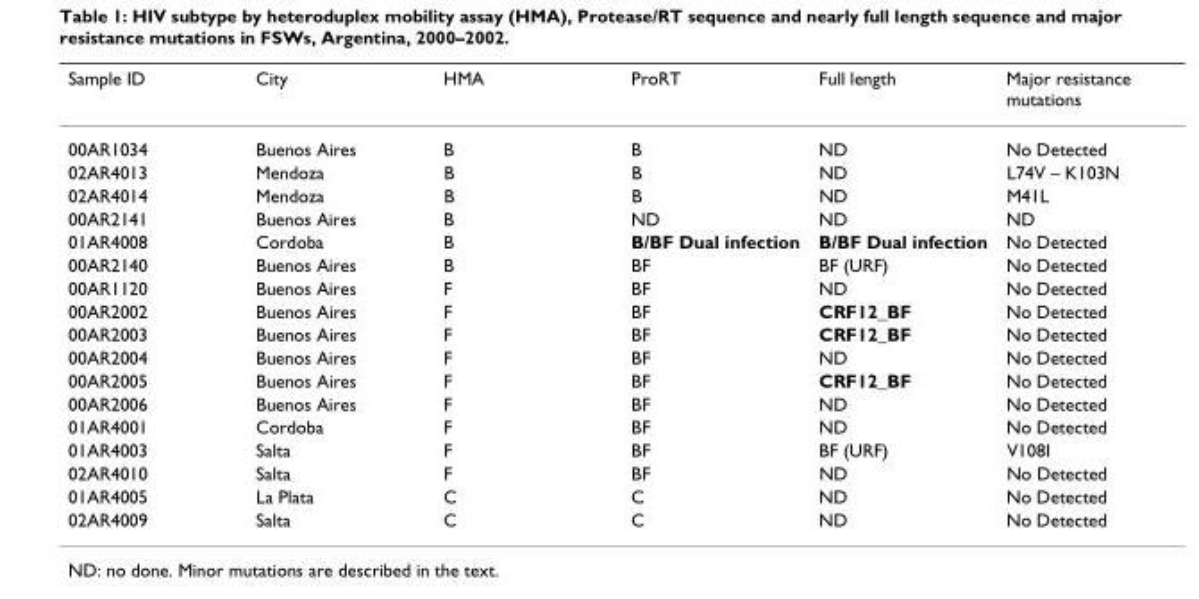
<table><thead><tr><td>Sample ID</td><td>City</td><td>HMA</td><td>ProRT</td><td>Full length</td><td>Major resistance mutations</td></tr></thead><tbody><tr><td>00AR1034</td><td>Buenos Aires</td><td>B</td><td>B</td><td>ND</td><td>No Detected</td></tr><tr><td>02AR4013</td><td>Mendoza</td><td>B</td><td>B</td><td>ND</td><td>L74V – K103N</td></tr><tr><td>02AR4014</td><td>Mendoza</td><td>B</td><td>B</td><td>ND</td><td>M41L</td></tr><tr><td>00AR2141</td><td>Buenos Aires</td><td>B</td><td>ND</td><td>ND</td><td>ND</td></tr><tr><td>01AR4008</td><td>Cordoba</td><td>B</td><td>B/BF Dual infection</td><td>B/BF Dual infection</td><td>No Detected</td></tr><tr><td>00AR2140</td><td>Buenos Aires</td><td>B</td><td>BF</td><td>BF (URF)</td><td>No Detected</td></tr><tr><td>00AR1120</td><td>Buenos Aires</td><td>F</td><td>BF</td><td>ND</td><td>No Detected</td></tr><tr><td>00AR2002</td><td>Buenos Aires</td><td>F</td><td>BF</td><td>CRF12_BF</td><td>No Detected</td></tr><tr><td>00AR2003</td><td>Buenos Aires</td><td>F</td><td>BF</td><td>CRF12_BF</td><td>No Detected</td></tr><tr><td>00AR2004</td><td>Buenos Aires</td><td>F</td><td>BF</td><td>ND</td><td>No Detected</td></tr><tr><td>00AR2005</td><td>Buenos Aires</td><td>F</td><td>BF</td><td>CRF12_BF</td><td>No Detected</td></tr><tr><td>00AR2006</td><td>Buenos Aires</td><td>F</td><td>BF</td><td>ND</td><td>No Detected</td></tr><tr><td>01AR4001</td><td>Cordoba</td><td>F</td><td>BF</td><td>ND</td><td>No Detected</td></tr><tr><td>01AR4003</td><td>Salta</td><td>F</td><td>BF</td><td>BF (URF)</td><td>V108I</td></tr><tr><td>02AR4010</td><td>Salta</td><td>F</td><td>BF</td><td>ND</td><td>No Detected</td></tr><tr><td>01AR4005</td><td>La Plata</td><td>C</td><td>C</td><td>ND</td><td>No Detected</td></tr><tr><td>02AR4009</td><td>Salta</td><td>C</td><td>C</td><td>ND</td><td>No Detected</td></tr></tbody></table>